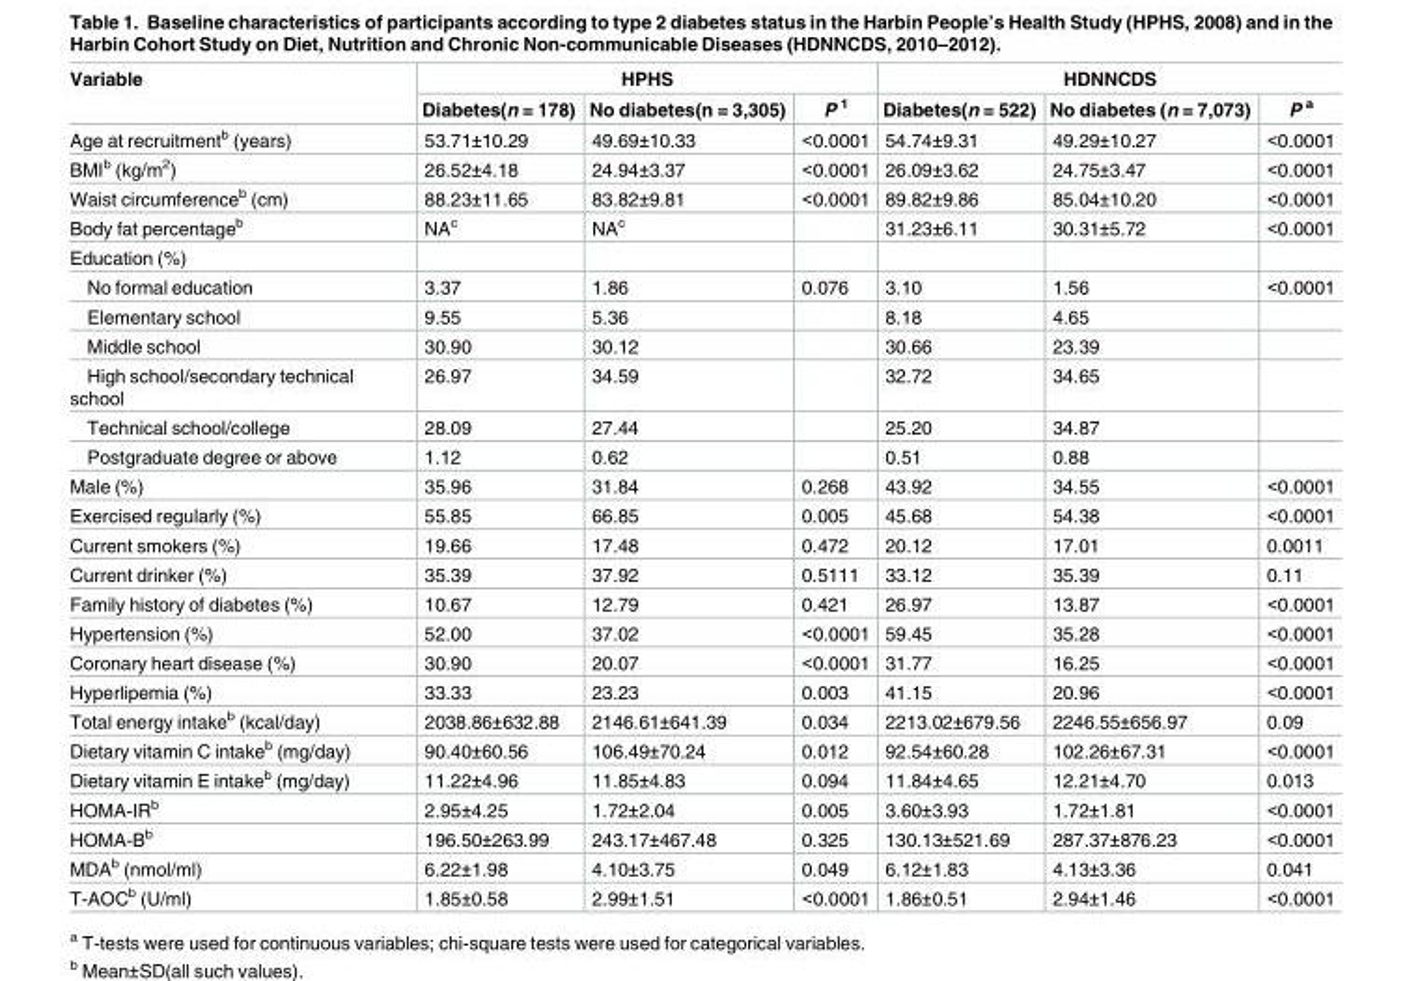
<table><thead><tr><td rowspan="2">Variable</td><td colspan="3">HPHS</td><td colspan="3">HDNNCDS</td></tr><tr><td>Diabetes(n = 178)</td><td>No diabetes(n = 3,305)</td><td>P <sup>1</sup></td><td>Diabetes(n = 522)</td><td>No diabetes (n = 7,073)</td><td>P <sup>a</sup></td></tr></thead><tbody><tr><td>Age at recruitment<sup>b</sup> (years)</td><td>53.71±10.29</td><td>49.69±10.33</td><td>&lt;0.0001</td><td>54.74±9.31</td><td>49.29±10.27</td><td>&lt;0.0001</td></tr><tr><td>BMI<sup>b</sup> (kg/m<sup>2</sup>)</td><td>26.52±4.18</td><td>24.94±3.37</td><td>&lt;0.0001</td><td>26.09±3.62</td><td>24.75±3.47</td><td>&lt;0.0001</td></tr><tr><td>Waist circumference<sup>b</sup> (cm)</td><td>88.23±11.65</td><td>83.82±9.81</td><td>&lt;0.0001</td><td>89.82±9.86</td><td>85.04±10.20</td><td>&lt;0.0001</td></tr><tr><td>Body fat percentage<sup>b</sup></td><td>NA<sup>c</sup></td><td>NA<sup>c</sup></td><td></td><td>31.23±6.11</td><td>30.31±5.72</td><td>&lt;0.0001</td></tr><tr><td colspan="7">Education (%)</td></tr><tr><td>No formal education</td><td>3.37</td><td>1.86</td><td>0.076</td><td>3.10</td><td>1.56</td><td>&lt;0.0001</td></tr><tr><td>Elementary school</td><td>9.55</td><td>5.36</td><td></td><td>8.18</td><td>4.65</td><td></td></tr><tr><td>Middle school</td><td>30.90</td><td>30.12</td><td></td><td>30.66</td><td>23.39</td><td></td></tr><tr><td>High school/secondary technical school</td><td>26.97</td><td>34.59</td><td></td><td>32.72</td><td>34.65</td><td></td></tr><tr><td>Technical school/college</td><td>28.09</td><td>27.44</td><td></td><td>25.20</td><td>34.87</td><td></td></tr><tr><td>Postgraduate degree or above</td><td>1.12</td><td>0.62</td><td></td><td>0.51</td><td>0.88</td><td></td></tr><tr><td>Male (%)</td><td>35.96</td><td>31.84</td><td>0.268</td><td>43.92</td><td>34.55</td><td>&lt;0.0001</td></tr><tr><td>Exercised regularly (%)</td><td>55.85</td><td>66.85</td><td>0.005</td><td>45.68</td><td>54.38</td><td>&lt;0.0001</td></tr><tr><td>Current smokers (%)</td><td>19.66</td><td>17.48</td><td>0.472</td><td>20.12</td><td>17.01</td><td>0.0011</td></tr><tr><td>Current drinker (%)</td><td>35.39</td><td>37.92</td><td>0.5111</td><td>33.12</td><td>35.39</td><td>0.11</td></tr><tr><td>Family history of diabetes (%)</td><td>10.67</td><td>12.79</td><td>0.421</td><td>26.97</td><td>13.87</td><td>&lt;0.0001</td></tr><tr><td>Hypertension (%)</td><td>52.00</td><td>37.02</td><td>&lt;0.0001</td><td>59.45</td><td>35.28</td><td>&lt;0.0001</td></tr><tr><td>Coronary heart disease (%)</td><td>30.90</td><td>20.07</td><td>&lt;0.0001</td><td>31.77</td><td>16.25</td><td>&lt;0.0001</td></tr><tr><td>Hyperlipemia (%)</td><td>33.33</td><td>23.23</td><td>0.003</td><td>41.15</td><td>20.96</td><td>&lt;0.0001</td></tr><tr><td>Total energy intake<sup>b</sup> (kcal/day)</td><td>2038.86±632.88</td><td>2146.61±641.39</td><td>0.034</td><td>2213.02±679.56</td><td>2246.55±656.97</td><td>0.09</td></tr><tr><td>Dietary vitamin C intake<sup>b</sup> (mg/day)</td><td>90.40±60.56</td><td>106.49±70.24</td><td>0.012</td><td>92.54±60.28</td><td>102.26±67.31</td><td>&lt;0.0001</td></tr><tr><td>Dietary vitamin E intake<sup>b</sup> (mg/day)</td><td>11.22±4.96</td><td>11.85±4.83</td><td>0.094</td><td>11.84±4.65</td><td>12.21±4.70</td><td>0.013</td></tr><tr><td>HOMA-IR<sup>b</sup></td><td>2.95±4.25</td><td>1.72±2.04</td><td>0.005</td><td>3.60±3.93</td><td>1.72±1.81</td><td>&lt;0.0001</td></tr><tr><td>HOMA-B<sup>b</sup></td><td>196.50±263.99</td><td>243.17±467.48</td><td>0.325</td><td>130.13±521.69</td><td>287.37±876.23</td><td>&lt;0.0001</td></tr><tr><td>MDA<sup>b</sup> (nmol/ml)</td><td>6.22±1.98</td><td>4.10±3.75</td><td>0.049</td><td>6.12±1.83</td><td>4.13±3.36</td><td>0.041</td></tr><tr><td>T-AOC<sup>b</sup> (U/ml)</td><td>1.85±0.58</td><td>2.99±1.51</td><td>&lt;0.0001</td><td>1.86±0.51</td><td>2.94±1.46</td><td>&lt;0.0001</td></tr></tbody></table>